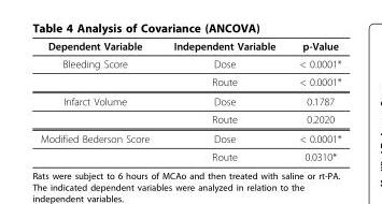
<table><thead><tr><td>Dependent Variable</td><td>Independent Variable</td><td>p-Value</td></tr></thead><tbody><tr><td rowspan="2">Bleeding Score</td><td>Dose</td><td>&lt; 0.0001*</td></tr><tr><td>Route</td><td>&lt; 0.0001*</td></tr><tr><td rowspan="2">Infarct Volume</td><td>Dose</td><td>0.1787</td></tr><tr><td>Route</td><td>0.2020</td></tr><tr><td rowspan="2">Modified Bederson Score</td><td>Dose</td><td>&lt; 0.0001*</td></tr><tr><td>Route</td><td>0.0310*</td></tr></tbody></table>